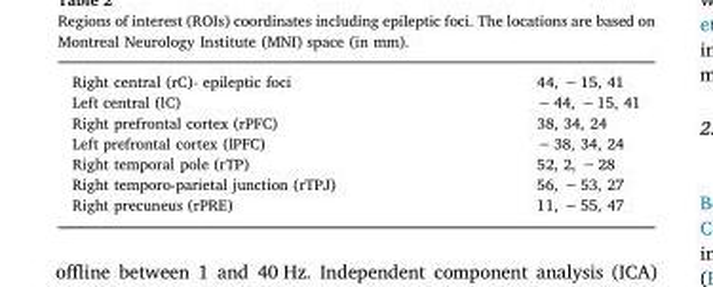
<table><tbody><tr><td>Right central (rC)- epileptic foci</td><td>44, −15, 41</td></tr><tr><td>Left central (lC)</td><td>−44, −15, 41</td></tr><tr><td>Right prefrontal cortex (rPFC)</td><td>38, 34, 24</td></tr><tr><td>Left prefrontal cortex (lPFC)</td><td>−38, 34, 24</td></tr><tr><td>Right temporal pole (rTP)</td><td>52, 2, −28</td></tr><tr><td>Right temporo-parietal junction (rTPJ)</td><td>56, −53, 27</td></tr><tr><td>Right precuneus (rPRE)</td><td>11, −55, 47</td></tr></tbody></table>